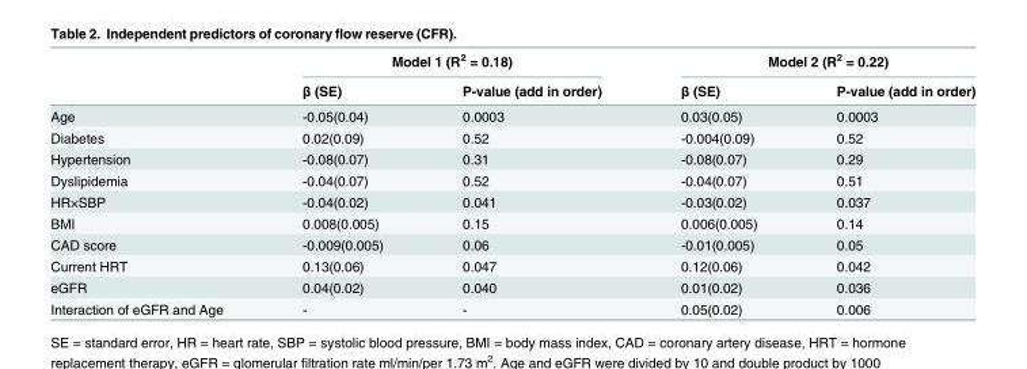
<table><thead><tr><td rowspan="2"></td><td colspan="2">Model 1 (R<sup>2</sup> = 0.18)</td><td colspan="2">Model 2 (R<sup>2</sup> = 0.22)</td></tr><tr><td>β (SE)</td><td>P-value (add in order)</td><td>β (SE)</td><td>P-value (add in order)</td></tr></thead><tbody><tr><td>Age</td><td>-0.05(0.04)</td><td>0.0003</td><td>0.03(0.05)</td><td>0.0003</td></tr><tr><td>Diabetes</td><td>0.02(0.09)</td><td>0.52</td><td>-0.004(0.09)</td><td>0.52</td></tr><tr><td>Hypertension</td><td>-0.08(0.07)</td><td>0.31</td><td>-0.08(0.07)</td><td>0.29</td></tr><tr><td>Dyslipidemia</td><td>-0.04(0.07)</td><td>0.52</td><td>-0.04(0.07)</td><td>0.51</td></tr><tr><td>HR×SBP</td><td>-0.04(0.02)</td><td>0.041</td><td>-0.03(0.02)</td><td>0.037</td></tr><tr><td>BMI</td><td>0.008(0.005)</td><td>0.15</td><td>0.006(0.005)</td><td>0.14</td></tr><tr><td>CAD score</td><td>-0.009(0.005)</td><td>0.06</td><td>-0.01(0.005)</td><td>0.05</td></tr><tr><td>Current HRT</td><td>0.13(0.06)</td><td>0.047</td><td>0.12(0.06)</td><td>0.042</td></tr><tr><td>eGFR</td><td>0.04(0.02)</td><td>0.040</td><td>0.01(0.02)</td><td>0.036</td></tr><tr><td>Interaction of eGFR and Age</td><td>-</td><td>-</td><td>0.05(0.02)</td><td>0.006</td></tr></tbody></table>